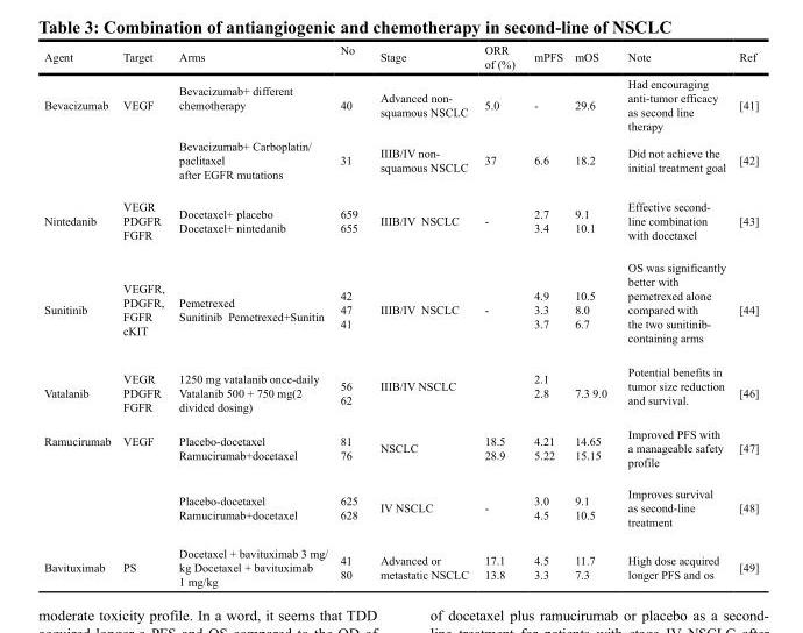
<table><thead><tr><td>Agent</td><td>Target</td><td>Arms</td><td>No</td><td>Stage</td><td>ORR of (%)</td><td>mPFS</td><td>mOS</td><td>Note</td><td>Ref</td></tr></thead><tbody><tr><td rowspan="2">Bevacizumab</td><td>VEGF</td><td>Bevacizumab+ different chemotherapy</td><td>40</td><td>Advanced non- squamous NSCLC</td><td>5.0</td><td>-</td><td>29.6</td><td>Had encouraging anti-tumor efficacy as second line therapy</td><td>[41]</td></tr><tr><td></td><td>Bevacizumab+ Carboplatin/ paclitaxel after EGFR mutations</td><td>31</td><td>IIIB/IV non- squamous NSCLC</td><td>37</td><td>6.6</td><td>18.2</td><td>Did not achieve the initial treatment goal</td><td>[42]</td></tr><tr><td>Nintedanib</td><td>VEGR PDGFR FGFR</td><td>Docetaxel+ placebo Docetaxel+ nintedanib</td><td>659 655</td><td>IIIB/IV NSCLC</td><td>-</td><td>2.7 3.4</td><td>9.1 10.1</td><td>Effective second- line combination with docetaxel</td><td>[43]</td></tr><tr><td>Sunitinib</td><td>VEGFR, PDGFR, FGFR cKIT</td><td>Pemetrexed Sunitinib Pemetrexed+Sunitin</td><td>42 47 41</td><td>IIIB/IV NSCLC</td><td>-</td><td>4.9 3.3 3.7</td><td>10.5 8.0 6.7</td><td>OS was significantly better with pemetrexed alone compared with the two sunitinib- containing arms</td><td>[44]</td></tr><tr><td>Vatalanib</td><td>VEGR PDGFR FGFR</td><td>1250 mg vatalanib once-daily Vatalanib 500 + 750 mg(2 divided dosing)</td><td>56 62</td><td>IIIB/IV NSCLC</td><td></td><td>2.1 2.8</td><td>7.3 9.0</td><td>Potential benefits in tumor size reduction and survival.</td><td>[46]</td></tr><tr><td rowspan="2">Ramucirumab</td><td>VEGF</td><td>Placebo-docetaxel Ramucirumab+docetaxel</td><td>81 76</td><td>NSCLC</td><td>18.5 28.9</td><td>4.21 5.22</td><td>14.65 15.15</td><td>Improved PFS with a manageable safety profile</td><td>[47]</td></tr><tr><td></td><td>Placebo-docetaxel Ramucirumab+docetaxel</td><td>625 628</td><td>IV NSCLC</td><td>-</td><td>3.0 4.5</td><td>9.1 10.5</td><td>Improves survival as second-line treatment</td><td>[48]</td></tr><tr><td>Bavituximab</td><td>PS</td><td>Docetaxel + bavituximab 3 mg/ kg Docetaxel + bavituximab 1 mg/kg</td><td>41 80</td><td>Advanced or metastatic NSCLC</td><td>17.1 13.8</td><td>4.5 3.3</td><td>11.7 7.3</td><td>High dose acquired longer PFS and os</td><td>[49]</td></tr></tbody></table>